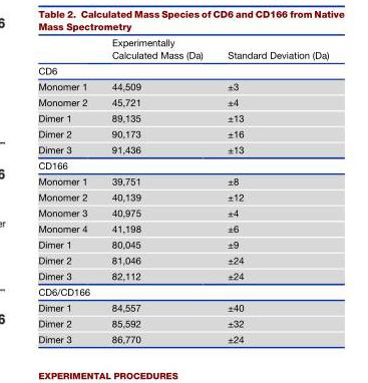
<table><thead><tr><td></td><td>Experimentally Calculated Mass (Da)</td><td>Standard Deviation (Da)</td></tr></thead><tbody><tr><td colspan="3">CD6</td></tr><tr><td>Monomer 1</td><td>44,509</td><td>±3</td></tr><tr><td>Monomer 2</td><td>45,721</td><td>±4</td></tr><tr><td>Dimer 1</td><td>89,135</td><td>±13</td></tr><tr><td>Dimer 2</td><td>90,173</td><td>±16</td></tr><tr><td>Dimer 3</td><td>91,436</td><td>±13</td></tr><tr><td colspan="3">CD166</td></tr><tr><td>Monomer 1</td><td>39,751</td><td>±8</td></tr><tr><td>Monomer 2</td><td>40,139</td><td>±12</td></tr><tr><td>Monomer 3</td><td>40,975</td><td>±4</td></tr><tr><td>Monomer 4</td><td>41,198</td><td>±6</td></tr><tr><td>Dimer 1</td><td>80,045</td><td>±9</td></tr><tr><td>Dimer 2</td><td>81,046</td><td>±24</td></tr><tr><td>Dimer 3</td><td>82,112</td><td>±24</td></tr><tr><td colspan="3">CD6/CD166</td></tr><tr><td>Dimer 1</td><td>84,557</td><td>±40</td></tr><tr><td>Dimer 2</td><td>85,592</td><td>±32</td></tr><tr><td>Dimer 3</td><td>86,770</td><td>±24</td></tr></tbody></table>